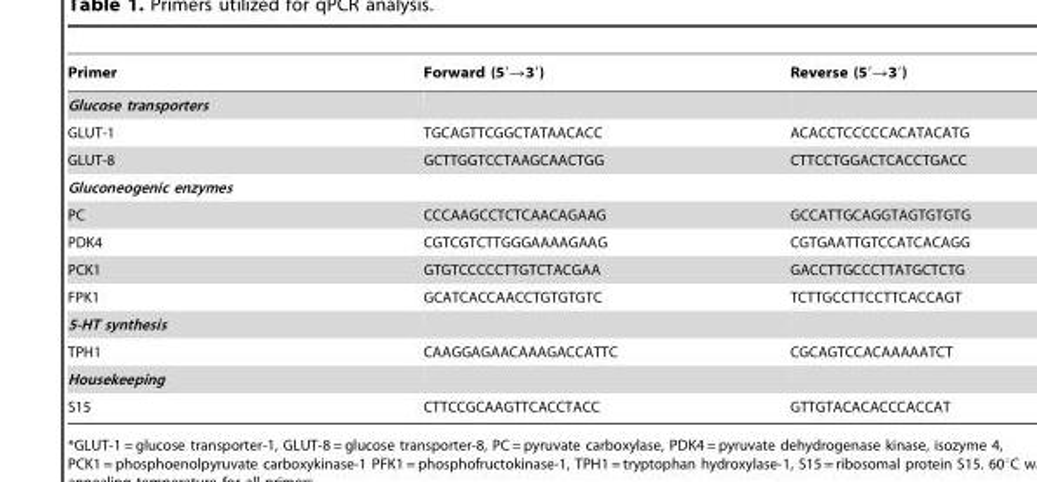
<table><thead><tr><td>Primer</td><td>Forward (5′→3′)</td><td>Reverse (5′→3′)</td></tr></thead><tbody><tr><td colspan="3">Glucose transporters</td></tr><tr><td>GLUT-1</td><td>TGCAGTTCGGCTATAACACC</td><td>ACACCTCCCCCACATACATG</td></tr><tr><td>GLUT-8</td><td>GCTTGGTCCTAAGCAACTGG</td><td>CTTCCTGGACTCACCTGACC</td></tr><tr><td colspan="3">Gluconeogenic enzymes</td></tr><tr><td>PC</td><td>CCCAAGCCTCTCAACAGAAG</td><td>GCCATTGCAGGTAGTGTGTG</td></tr><tr><td>PDK4</td><td>CGTCGTCTTGGGAAAAGAAG</td><td>CGTGAATTGTCCATCACAGG</td></tr><tr><td>PCK1</td><td>GTGTCCCCCTTGTCTACGAA</td><td>GACCTTGCCCTTATGCTCTG</td></tr><tr><td>FPK1</td><td>GCATCACCAACCTGTGTGTC</td><td>TCTTGCCTTCCTTCACCAGT</td></tr><tr><td colspan="3">5-HT synthesis</td></tr><tr><td>TPH1</td><td>CAAGGAGAACAAAGACCATTC</td><td>CGCAGTCCACAAAAATCT</td></tr><tr><td colspan="3">Housekeeping</td></tr><tr><td>S15</td><td>CTTCCGCAAGTTCACCTACC</td><td>GTTGTACACACCCACCAT</td></tr></tbody></table>